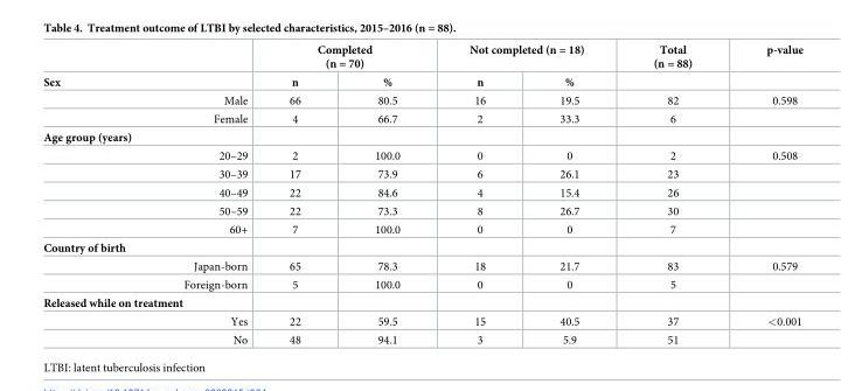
<table><thead><tr><td rowspan="2">Sex</td><td colspan="2">Completed (n = 70)</td><td colspan="2">Not completed (n = 18)</td><td rowspan="2">Total (n = 88)</td><td rowspan="2">p-value</td></tr><tr><td>n</td><td>%</td><td>n</td><td>%</td></tr></thead><tbody><tr><td>Male</td><td>66</td><td>80.5</td><td>16</td><td>19.5</td><td>82</td><td>0.598</td></tr><tr><td>Female</td><td>4</td><td>66.7</td><td>2</td><td>33.3</td><td>6</td><td></td></tr><tr><td colspan="7">Age group (years)</td></tr><tr><td>20–29</td><td>2</td><td>100.0</td><td>0</td><td>0</td><td>2</td><td>0.508</td></tr><tr><td>30–39</td><td>17</td><td>73.9</td><td>6</td><td>26.1</td><td>23</td><td></td></tr><tr><td>40–49</td><td>22</td><td>84.6</td><td>4</td><td>15.4</td><td>26</td><td></td></tr><tr><td>50–59</td><td>22</td><td>73.3</td><td>8</td><td>26.7</td><td>30</td><td></td></tr><tr><td>60+</td><td>7</td><td>100.0</td><td>0</td><td>0</td><td>7</td><td></td></tr><tr><td colspan="7">Country of birth</td></tr><tr><td>Japan-born</td><td>65</td><td>78.3</td><td>18</td><td>21.7</td><td>83</td><td>0.579</td></tr><tr><td>Foreign-born</td><td>5</td><td>100.0</td><td>0</td><td>0</td><td>5</td><td></td></tr><tr><td colspan="7">Released while on treatment</td></tr><tr><td>Yes</td><td>22</td><td>59.5</td><td>15</td><td>40.5</td><td>37</td><td>&lt;0.001</td></tr><tr><td>No</td><td>48</td><td>94.1</td><td>3</td><td>5.9</td><td>51</td><td></td></tr></tbody></table>